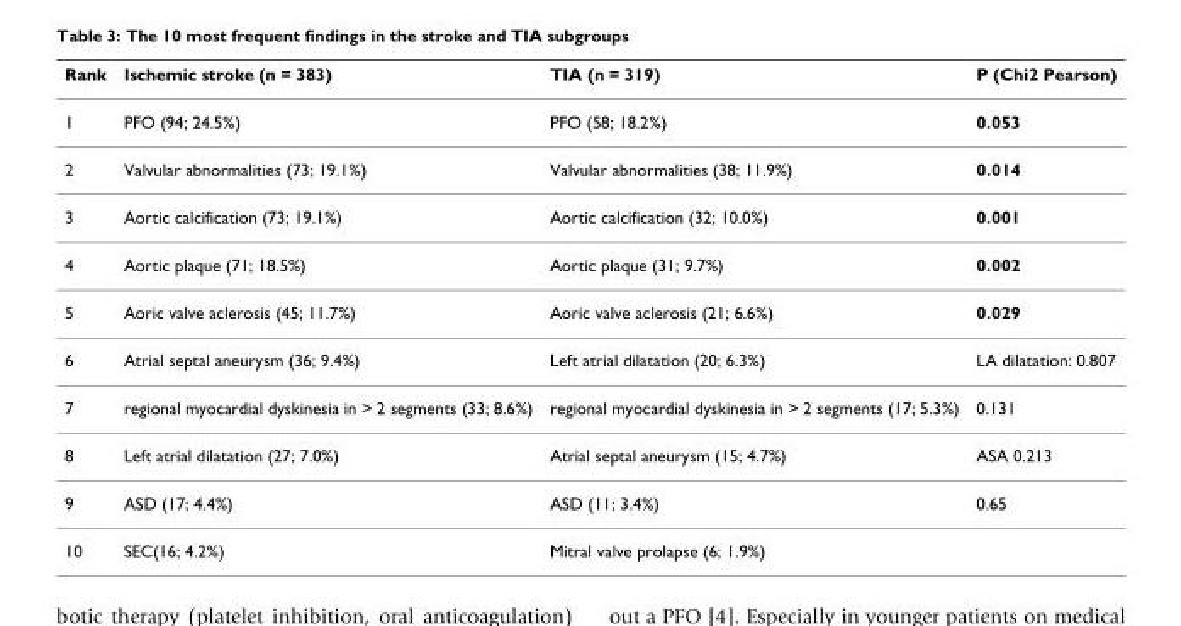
<table><thead><tr><td>Rank</td><td>Ischemic stroke (n = 383)</td><td>TIA (n = 319)</td><td>P (Chi2 Pearson)</td></tr></thead><tbody><tr><td>1</td><td>PFO (94; 24.5%)</td><td>PFO (58; 18.2%)</td><td>0.053</td></tr><tr><td>2</td><td>Valvular abnormalities (73; 19.1%)</td><td>Valvular abnormalities (38; 11.9%)</td><td>0.014</td></tr><tr><td>3</td><td>Aortic calcification (73; 19.1%)</td><td>Aortic calcification (32; 10.0%)</td><td>0.001</td></tr><tr><td>4</td><td>Aortic plaque (71; 18.5%)</td><td>Aortic plaque (31; 9.7%)</td><td>0.002</td></tr><tr><td>5</td><td>Aoric valve aclerosis (45; 11.7%)</td><td>Aoric valve aclerosis (21; 6.6%)</td><td>0.029</td></tr><tr><td>6</td><td>Atrial septal aneurysm (36; 9.4%)</td><td>Left atrial dilatation (20; 6.3%)</td><td>LA dilatation: 0.807</td></tr><tr><td>7</td><td>regional myocardial dyskinesia in &gt; 2 segments (33; 8.6%)</td><td>regional myocardial dyskinesia in &gt; 2 segments (17; 5.3%)</td><td>0.131</td></tr><tr><td>8</td><td>Left atrial dilatation (27; 7.0%)</td><td>Atrial septal aneurysm (15; 4.7%)</td><td>ASA 0.213</td></tr><tr><td>9</td><td>ASD (17; 4.4%)</td><td>ASD (11; 3.4%)</td><td>0.65</td></tr><tr><td>10</td><td>SEC(16; 4.2%)</td><td>Mitral valve prolapse (6; 1.9%)</td><td></td></tr></tbody></table>